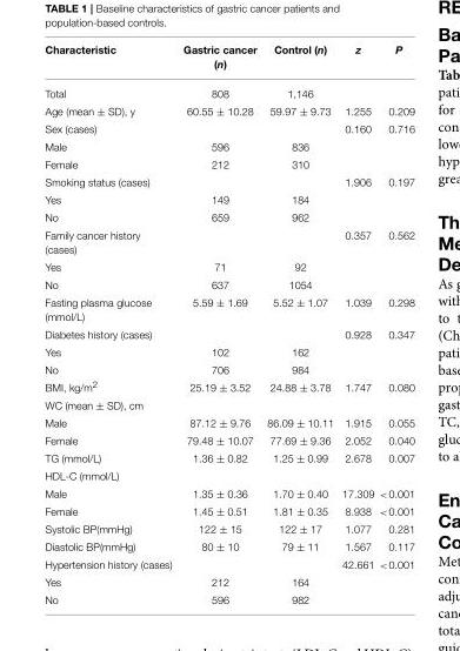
<table><thead><tr><td>Characteristic</td><td>Gastric cancer (n)</td><td>Control (n)</td><td>z</td><td>P</td></tr></thead><tbody><tr><td>Total</td><td>808</td><td>1,146</td><td></td><td></td></tr><tr><td>Age (mean ± SD), y</td><td>60.55 ± 10.28</td><td>59.97 ± 9.73</td><td>1.255</td><td>0.209</td></tr><tr><td>Sex (cases)</td><td></td><td></td><td>0.160</td><td>0.716</td></tr><tr><td>Male</td><td>596</td><td>836</td><td></td><td></td></tr><tr><td>Female</td><td>212</td><td>310</td><td></td><td></td></tr><tr><td>Smoking status (cases)</td><td></td><td></td><td>1.906</td><td>0.197</td></tr><tr><td>Yes</td><td>149</td><td>184</td><td></td><td></td></tr><tr><td>No</td><td>659</td><td>962</td><td></td><td></td></tr><tr><td>Family cancer history (cases)</td><td></td><td></td><td>0.357</td><td>0.562</td></tr><tr><td>Yes</td><td>71</td><td>92</td><td></td><td></td></tr><tr><td>No</td><td>637</td><td>1054</td><td></td><td></td></tr><tr><td>Fasting plasma glucose (mmol/L)</td><td>5.59 ± 1.69</td><td>5.52 ± 1.07</td><td>1.039</td><td>0.298</td></tr><tr><td>Diabetes history (cases)</td><td></td><td></td><td>0.928</td><td>0.347</td></tr><tr><td>Yes</td><td>102</td><td>162</td><td></td><td></td></tr><tr><td>No</td><td>706</td><td>984</td><td></td><td></td></tr><tr><td>BMI, kg/m<sup>2</sup></td><td>25.19 ± 3.52</td><td>24.88 ± 3.78</td><td>1.747</td><td>0.080</td></tr><tr><td colspan="5">WC (mean ± SD), cm</td></tr><tr><td>Male</td><td>87.12 ± 9.76</td><td>86.09 ± 10.11</td><td>1.915</td><td>0.055</td></tr><tr><td>Female</td><td>79.48 ± 10.07</td><td>77.69 ± 9.36</td><td>2.052</td><td>0.040</td></tr><tr><td>TG (mmol/L)</td><td>1.36 ± 0.82</td><td>1.25 ± 0.99</td><td>2.678</td><td>0.007</td></tr><tr><td colspan="5">HDL-C (mmol/L)</td></tr><tr><td>Male</td><td>1.35 ± 0.36</td><td>1.70 ± 0.40</td><td>17.309</td><td>&lt;0.001</td></tr><tr><td>Female</td><td>1.45 ± 0.51</td><td>1.81 ± 0.35</td><td>8.938</td><td>&lt;0.001</td></tr><tr><td>Systolic BP(mmHg)</td><td>122 ± 15</td><td>122 ± 17</td><td>1.077</td><td>0.281</td></tr><tr><td>Diastolic BP(mmHg)</td><td>80 ± 10</td><td>79 ± 11</td><td>1.567</td><td>0.117</td></tr><tr><td>Hypertension history (cases)</td><td></td><td></td><td>42.661</td><td>&lt;0.001</td></tr><tr><td>Yes</td><td>212</td><td>164</td><td></td><td></td></tr><tr><td>No</td><td>596</td><td>982</td><td></td><td></td></tr></tbody></table>